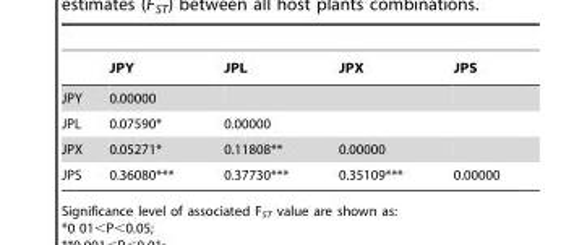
<table><thead><tr><td></td><td>JPY</td><td>JPL</td><td>JPX</td><td>JPS</td></tr></thead><tbody><tr><td>JPY</td><td>0.00000</td><td></td><td></td><td></td></tr><tr><td>JPL</td><td>0.07590*</td><td>0.00000</td><td></td><td></td></tr><tr><td>JPX</td><td>0.05271*</td><td>0.11808**</td><td>0.00000</td><td></td></tr><tr><td>JPS</td><td>0.36080***</td><td>0.37730***</td><td>0.35109***</td><td>0.00000</td></tr></tbody></table>